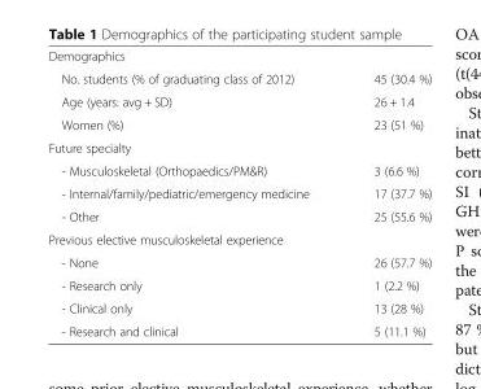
<table><tbody><tr><td colspan="2">Demographics</td></tr><tr><td>No. students (% of graduating class of 2012)</td><td>45 (30.4 %)</td></tr><tr><td>Age (years: avg + SD)</td><td>26 + 1.4</td></tr><tr><td>Women (%)</td><td>23 (51 %)</td></tr><tr><td colspan="2">Future specialty</td></tr><tr><td>- Musculoskeletal (Orthopaedics/PM&amp;R)</td><td>3 (6.6 %)</td></tr><tr><td>- Internal/family/pediatric/emergency medicine</td><td>17 (37.7 %)</td></tr><tr><td>- Other</td><td>25 (55.6 %)</td></tr><tr><td colspan="2">Previous elective musculoskeletal experience</td></tr><tr><td>- None</td><td>26 (57.7 %)</td></tr><tr><td>- Research only</td><td>1 (2.2 %)</td></tr><tr><td>- Clinical only</td><td>13 (28 %)</td></tr><tr><td>- Research and clinical</td><td>5 (11.1 %)</td></tr></tbody></table>